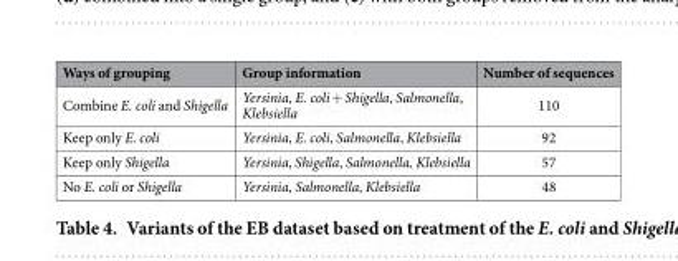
<table><thead><tr><td>Ways of grouping</td><td>Group information</td><td>Number of sequences</td></tr></thead><tbody><tr><td>Combine E. coli and Shigella</td><td>Yersinia, E. coli + Shigella, Salmonella, Klebsiella</td><td>110</td></tr><tr><td>Keep only E. coli</td><td>Yersinia, E. coli, Salmonella, Klebsiella</td><td>92</td></tr><tr><td>Keep only Shigella</td><td>Yersinia, Shigella, Salmonella, Klebsiella</td><td>57</td></tr><tr><td>No E. coli or Shigella</td><td>Yersinia, Salmonella, Klebsiella</td><td>48</td></tr></tbody></table>